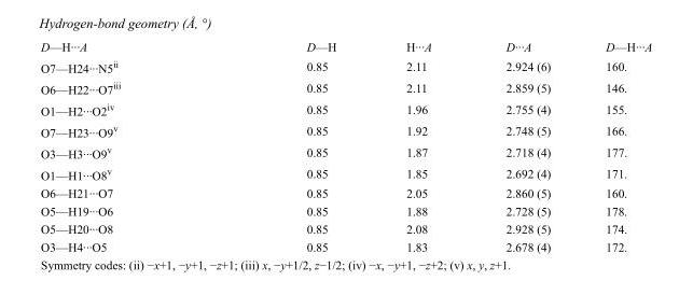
<table><tbody><tr><td>D—H···A</td><td>D—H</td><td>H···A</td><td>D···A</td><td>D—H···A</td></tr><tr><td>O7—H24···N5<sup>ii</sup></td><td>0.85</td><td>2.11</td><td>2.924 (6)</td><td>160.</td></tr><tr><td>O6—H22···O7<sup>iii</sup></td><td>0.85</td><td>2.11</td><td>2.859 (5)</td><td>146.</td></tr><tr><td>O1—H2···O2<sup>iv</sup></td><td>0.85</td><td>1.96</td><td>2.755 (4)</td><td>155.</td></tr><tr><td>O7—H23···O9<sup>v</sup></td><td>0.85</td><td>1.92</td><td>2.748 (5)</td><td>166.</td></tr><tr><td>O3—H3···O9<sup>v</sup></td><td>0.85</td><td>1.87</td><td>2.718 (4)</td><td>177.</td></tr><tr><td>O1—H1···O8<sup>v</sup></td><td>0.85</td><td>1.85</td><td>2.692 (4)</td><td>171.</td></tr><tr><td>O6—H21···O7</td><td>0.85</td><td>2.05</td><td>2.860 (5)</td><td>160.</td></tr><tr><td>O5—H19···O6</td><td>0.85</td><td>1.88</td><td>2.728 (5)</td><td>178.</td></tr><tr><td>O5—H20···O8</td><td>0.85</td><td>2.08</td><td>2.928 (5)</td><td>174.</td></tr><tr><td>O3—H4···O5</td><td>0.85</td><td>1.83</td><td>2.678 (4)</td><td>172.</td></tr></tbody></table>